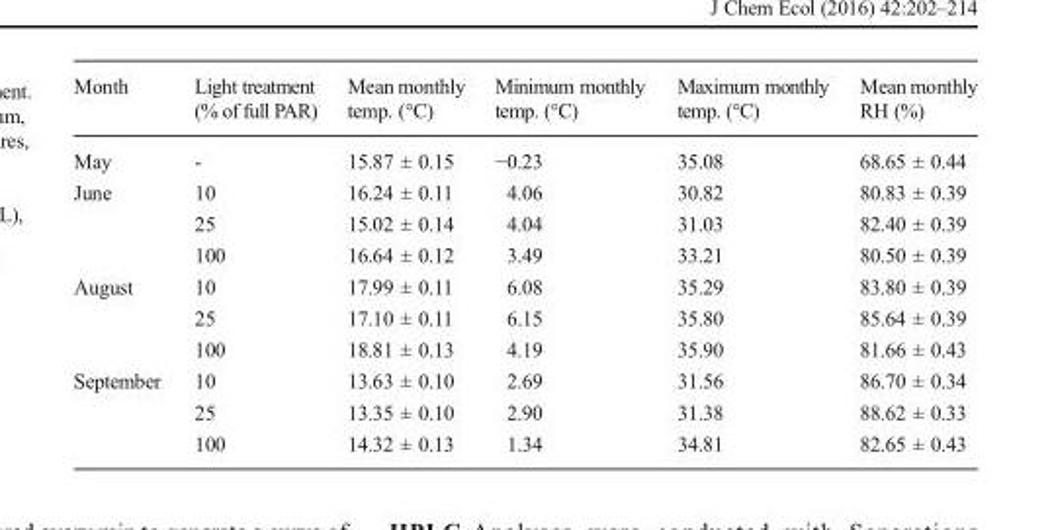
<table><thead><tr><td>Month</td><td>Light treatment (% of full PAR)</td><td>Mean monthly temp. (°C)</td><td>Minimum monthly temp. (°C)</td><td>Maximum monthly temp. (°C)</td><td>Mean monthly RH (%)</td></tr></thead><tbody><tr><td>May</td><td>-</td><td>15.87 ± 0.15</td><td>−0.23</td><td>35.08</td><td>68.65 ± 0.44</td></tr><tr><td rowspan="3">June</td><td>10</td><td>16.24 ± 0.11</td><td>4.06</td><td>30.82</td><td>80.83 ± 0.39</td></tr><tr><td>25</td><td>15.02 ± 0.14</td><td>4.04</td><td>31.03</td><td>82.40 ± 0.39</td></tr><tr><td>100</td><td>16.64 ± 0.12</td><td>3.49</td><td>33.21</td><td>80.50 ± 0.39</td></tr><tr><td rowspan="3">August</td><td>10</td><td>17.99 ± 0.11</td><td>6.08</td><td>35.29</td><td>83.80 ± 0.39</td></tr><tr><td>25</td><td>17.10 ± 0.11</td><td>6.15</td><td>35.80</td><td>85.64 ± 0.39</td></tr><tr><td>100</td><td>18.81 ± 0.13</td><td>4.19</td><td>35.90</td><td>81.66 ± 0.43</td></tr><tr><td rowspan="3">September</td><td>10</td><td>13.63 ± 0.10</td><td>2.69</td><td>31.56</td><td>86.70 ± 0.34</td></tr><tr><td>25</td><td>13.35 ± 0.10</td><td>2.90</td><td>31.38</td><td>88.62 ± 0.33</td></tr><tr><td>100</td><td>14.32 ± 0.13</td><td>1.34</td><td>34.81</td><td>82.65 ± 0.43</td></tr></tbody></table>